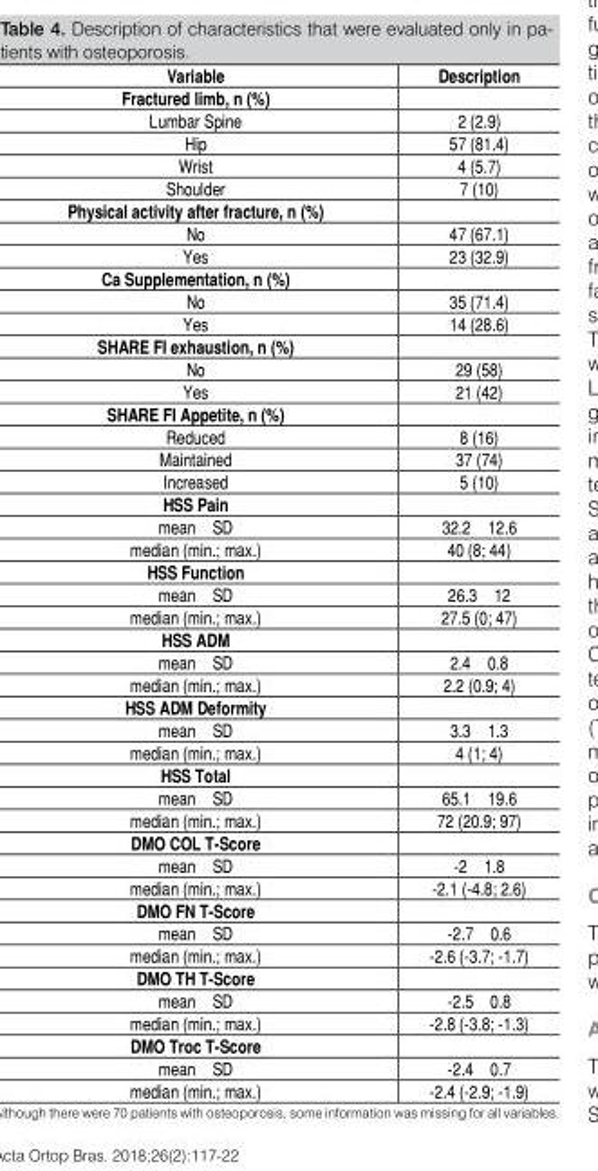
<table><tbody><tr><td>Variable</td><td>Description</td></tr><tr><td colspan="2">Fractured limb, n (%)</td></tr><tr><td>Lumbar Spine</td><td>2 (2.9)</td></tr><tr><td>Hip</td><td>57 (81.4)</td></tr><tr><td>Wrist</td><td>4 (5.7)</td></tr><tr><td>Shoulder</td><td>7 (10)</td></tr><tr><td colspan="2">Physical activity after fracture, n (%)</td></tr><tr><td>No</td><td>47 (67.1)</td></tr><tr><td>Yes</td><td>23 (32.9)</td></tr><tr><td colspan="2">Ca Supplementation, n (%)</td></tr><tr><td>No</td><td>35 (71.4)</td></tr><tr><td>Yes</td><td>14 (28.6)</td></tr><tr><td colspan="2">SHARE FI exhaustion, n (%)</td></tr><tr><td>No</td><td>29 (58)</td></tr><tr><td>Yes</td><td>21 (42)</td></tr><tr><td colspan="2">SHARE FI Appetite, n (%)</td></tr><tr><td>Reduced</td><td>8 (16)</td></tr><tr><td>Maintained</td><td>37 (74)</td></tr><tr><td>Increased</td><td>5 (10)</td></tr><tr><td colspan="2">HSS Pain</td></tr><tr><td>mean ± SD</td><td>32.2 ± 12.6</td></tr><tr><td>median (min.; max.)</td><td>40 (8; 44)</td></tr><tr><td colspan="2">HSS Function</td></tr><tr><td>mean ± SD</td><td>26.3 ± 12</td></tr><tr><td>median (min.; max.)</td><td>27.5 (0; 47)</td></tr><tr><td colspan="2">HSS ADM</td></tr><tr><td>mean ± SD</td><td>2.4 ± 0.8</td></tr><tr><td>median (min.; max.)</td><td>2.2 (0.9; 4)</td></tr><tr><td colspan="2">HSS ADM Deformity</td></tr><tr><td>mean ± SD</td><td>3.3 ± 1.3</td></tr><tr><td>median (min.; max.)</td><td>4 (1; 4)</td></tr><tr><td colspan="2">HSS Total</td></tr><tr><td>mean ± SD</td><td>65.1 ± 19.6</td></tr><tr><td>median (min.; max.)</td><td>72 (20.9; 97)</td></tr><tr><td colspan="2">DMO COL T-Score</td></tr><tr><td>mean ± SD</td><td>-2 ± 1.8</td></tr><tr><td>median (min.; max.)</td><td>-2.1 (-4.8; 2.6)</td></tr><tr><td colspan="2">DMO FN T-Score</td></tr><tr><td>mean ± SD</td><td>-2.7 ± 0.6</td></tr><tr><td>median (min.; max.)</td><td>-2.6 (-3.7; -1.7)</td></tr><tr><td colspan="2">DMO TH T-Score</td></tr><tr><td>mean ± SD</td><td>-2.5 ± 0.8</td></tr><tr><td>median (min.; max.)</td><td>-2.8 (-3.8; -1.3)</td></tr><tr><td colspan="2">DMO Troc T-Score</td></tr><tr><td>mean ± SD</td><td>-2.4 ± 0.7</td></tr><tr><td>median (min.; max.)</td><td>-2.4 (-2.9; -1.9)</td></tr></tbody></table>